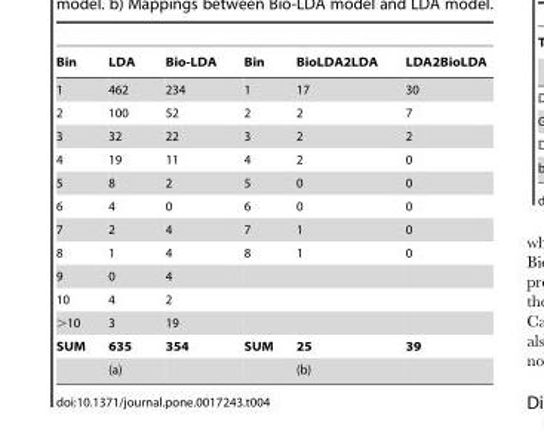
<table><thead><tr><td>Bin</td><td>LDA</td><td>Bio-LDA</td><td>Bin</td><td>BioLDA2LDA</td><td>LDA2BioLDA</td></tr></thead><tbody><tr><td>1</td><td>462</td><td>234</td><td>1</td><td>17</td><td>30</td></tr><tr><td>2</td><td>100</td><td>52</td><td>2</td><td>2</td><td>7</td></tr><tr><td>3</td><td>32</td><td>22</td><td>3</td><td>2</td><td>2</td></tr><tr><td>4</td><td>19</td><td>11</td><td>4</td><td>2</td><td>0</td></tr><tr><td>5</td><td>8</td><td>2</td><td>5</td><td>0</td><td>0</td></tr><tr><td>6</td><td>4</td><td>0</td><td>6</td><td>0</td><td>0</td></tr><tr><td>7</td><td>2</td><td>4</td><td>7</td><td>1</td><td>0</td></tr><tr><td>8</td><td>1</td><td>4</td><td>8</td><td>1</td><td>0</td></tr><tr><td>9</td><td>0</td><td>4</td><td></td><td></td><td></td></tr><tr><td>10</td><td>4</td><td>2</td><td></td><td></td><td></td></tr><tr><td>&gt;10</td><td>3</td><td>19</td><td></td><td></td><td></td></tr><tr><td rowspan="2">SUM</td><td>635</td><td>354</td><td>SUM</td><td>25</td><td>39</td></tr><tr><td>(a)</td><td></td><td></td><td>(b)</td><td></td></tr></tbody></table>